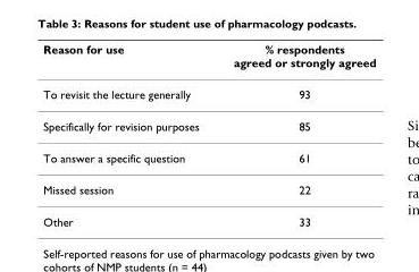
<table><thead><tr><td>Reason for use</td><td>% respondents agreed or strongly agreed</td></tr></thead><tbody><tr><td>To revisit the lecture generally</td><td>93</td></tr><tr><td>Specifically for revision purposes</td><td>85</td></tr><tr><td>To answer a specific question</td><td>61</td></tr><tr><td>Missed session</td><td>22</td></tr><tr><td>Other</td><td>33</td></tr></tbody></table>